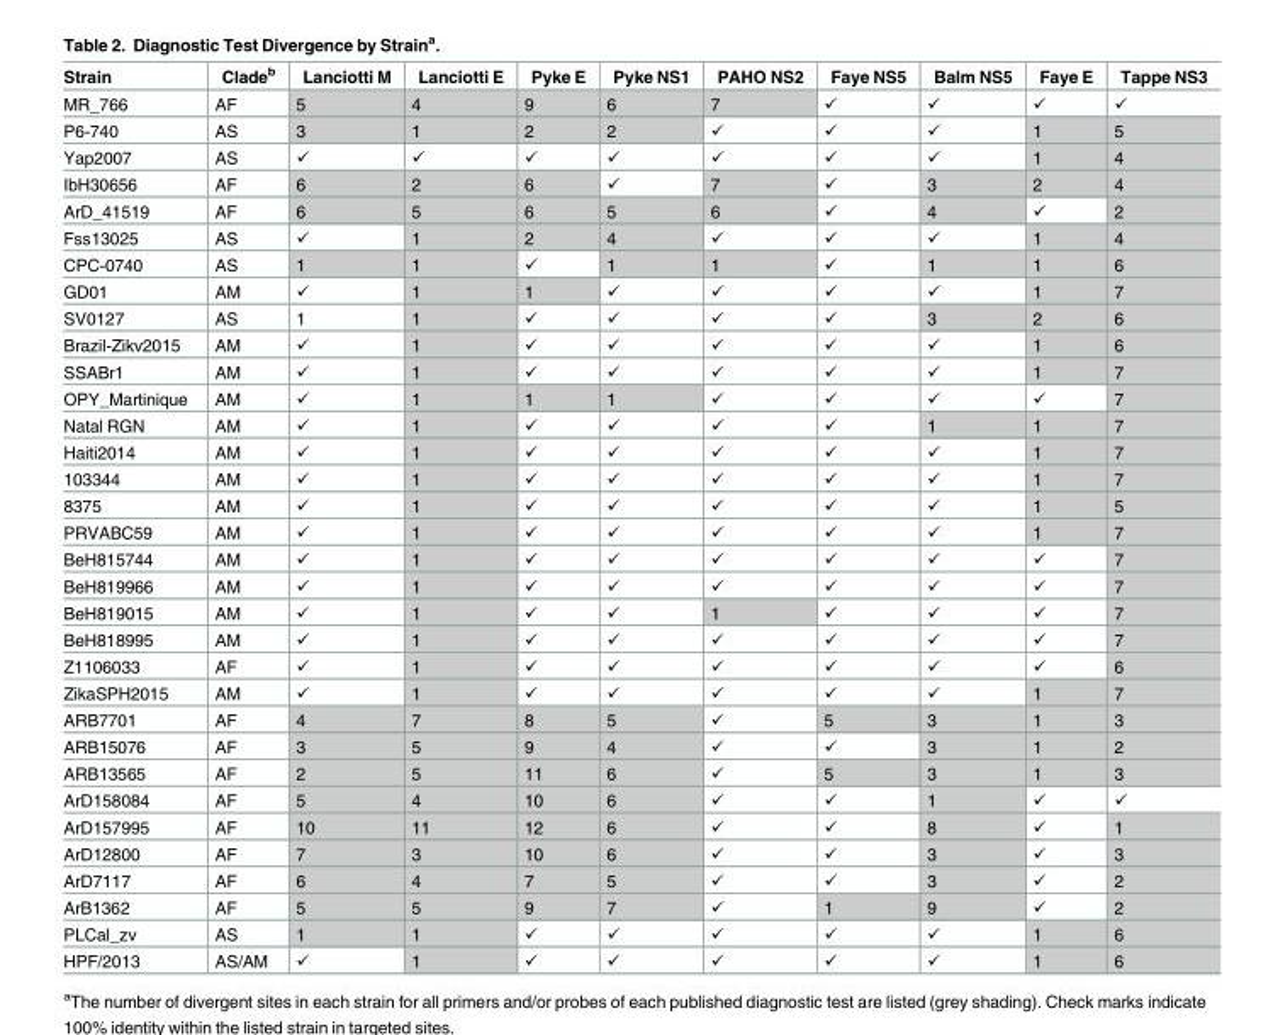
<table><thead><tr><td>Strain</td><td>Clade<sup>b</sup></td><td>Lanciotti M</td><td>Lanciotti E</td><td>Pyke E</td><td>Pyke NS1</td><td>PAHO NS2</td><td>Faye NS5</td><td>Balm NS5</td><td>Faye E</td><td>Tappe NS3</td></tr></thead><tbody><tr><td>MR_766</td><td>AF</td><td>5</td><td>4</td><td>9</td><td>6</td><td>7</td><td>✓</td><td>✓</td><td>✓</td><td>✓</td></tr><tr><td>P6-740</td><td>AS</td><td>3</td><td>1</td><td>2</td><td>2</td><td>✓</td><td>✓</td><td>✓</td><td>1</td><td>5</td></tr><tr><td>Yap2007</td><td>AS</td><td>✓</td><td>✓</td><td>✓</td><td>✓</td><td>✓</td><td>✓</td><td>✓</td><td>1</td><td>4</td></tr><tr><td>IbH30656</td><td>AF</td><td>6</td><td>2</td><td>6</td><td>✓</td><td>7</td><td>✓</td><td>3</td><td>2</td><td>4</td></tr><tr><td>ArD_41519</td><td>AF</td><td>6</td><td>5</td><td>6</td><td>5</td><td>6</td><td>✓</td><td>4</td><td>✓</td><td>2</td></tr><tr><td>Fss13025</td><td>AS</td><td>✓</td><td>1</td><td>2</td><td>4</td><td>✓</td><td>✓</td><td>✓</td><td>1</td><td>4</td></tr><tr><td>CPC-0740</td><td>AS</td><td>1</td><td>1</td><td>✓</td><td>1</td><td>1</td><td>✓</td><td>1</td><td>1</td><td>6</td></tr><tr><td>GD01</td><td>AM</td><td>✓</td><td>1</td><td>1</td><td>✓</td><td>✓</td><td>✓</td><td>✓</td><td>1</td><td>7</td></tr><tr><td>SV0127</td><td>AS</td><td>1</td><td>1</td><td>✓</td><td>✓</td><td>✓</td><td>✓</td><td>3</td><td>2</td><td>6</td></tr><tr><td>Brazil-Zikv2015</td><td>AM</td><td>✓</td><td>1</td><td>✓</td><td>✓</td><td>✓</td><td>✓</td><td>✓</td><td>1</td><td>6</td></tr><tr><td>SSABr1</td><td>AM</td><td>✓</td><td>1</td><td>✓</td><td>✓</td><td>✓</td><td>✓</td><td>✓</td><td>1</td><td>7</td></tr><tr><td>OPY_Martinique</td><td>AM</td><td>✓</td><td>1</td><td>1</td><td>1</td><td>✓</td><td>✓</td><td>✓</td><td>✓</td><td>7</td></tr><tr><td>Natal RGN</td><td>AM</td><td>✓</td><td>1</td><td>✓</td><td>✓</td><td>✓</td><td>✓</td><td>1</td><td>1</td><td>7</td></tr><tr><td>Haiti2014</td><td>AM</td><td>✓</td><td>1</td><td>✓</td><td>✓</td><td>✓</td><td>✓</td><td>✓</td><td>1</td><td>7</td></tr><tr><td>103344</td><td>AM</td><td>✓</td><td>1</td><td>✓</td><td>✓</td><td>✓</td><td>✓</td><td>✓</td><td>1</td><td>7</td></tr><tr><td>8375</td><td>AM</td><td>✓</td><td>1</td><td>✓</td><td>✓</td><td>✓</td><td>✓</td><td>✓</td><td>1</td><td>5</td></tr><tr><td>PRVABC59</td><td>AM</td><td>✓</td><td>1</td><td>✓</td><td>✓</td><td>✓</td><td>✓</td><td>✓</td><td>1</td><td>7</td></tr><tr><td>BeH815744</td><td>AM</td><td>✓</td><td>1</td><td>✓</td><td>✓</td><td>✓</td><td>✓</td><td>✓</td><td>✓</td><td>7</td></tr><tr><td>BeH819966</td><td>AM</td><td>✓</td><td>1</td><td>✓</td><td>✓</td><td>✓</td><td>✓</td><td>✓</td><td>✓</td><td>7</td></tr><tr><td>BeH819015</td><td>AM</td><td>✓</td><td>1</td><td>✓</td><td>✓</td><td>1</td><td>✓</td><td>✓</td><td>✓</td><td>7</td></tr><tr><td>BeH818995</td><td>AM</td><td>✓</td><td>1</td><td>✓</td><td>✓</td><td>✓</td><td>✓</td><td>✓</td><td>✓</td><td>7</td></tr><tr><td>Z1106033</td><td>AF</td><td>✓</td><td>1</td><td>✓</td><td>✓</td><td>✓</td><td>✓</td><td>✓</td><td>✓</td><td>6</td></tr><tr><td>ZikaSPH2015</td><td>AM</td><td>✓</td><td>1</td><td>✓</td><td>✓</td><td>✓</td><td>✓</td><td>✓</td><td>1</td><td>7</td></tr><tr><td>ARB7701</td><td>AF</td><td>4</td><td>7</td><td>8</td><td>5</td><td>✓</td><td>5</td><td>3</td><td>1</td><td>3</td></tr><tr><td>ARB15076</td><td>AF</td><td>3</td><td>5</td><td>9</td><td>4</td><td>✓</td><td>✓</td><td>3</td><td>1</td><td>2</td></tr><tr><td>ARB13565</td><td>AF</td><td>2</td><td>5</td><td>11</td><td>6</td><td>✓</td><td>5</td><td>3</td><td>1</td><td>3</td></tr><tr><td>ArD158084</td><td>AF</td><td>5</td><td>4</td><td>10</td><td>6</td><td>✓</td><td>✓</td><td>1</td><td>✓</td><td>✓</td></tr><tr><td>ArD157995</td><td>AF</td><td>10</td><td>11</td><td>12</td><td>6</td><td>✓</td><td>✓</td><td>8</td><td>✓</td><td>1</td></tr><tr><td>ArD12800</td><td>AF</td><td>7</td><td>3</td><td>10</td><td>6</td><td>✓</td><td>✓</td><td>3</td><td>✓</td><td>3</td></tr><tr><td>ArD7117</td><td>AF</td><td>6</td><td>4</td><td>7</td><td>5</td><td>✓</td><td>✓</td><td>3</td><td>✓</td><td>2</td></tr><tr><td>ArB1362</td><td>AF</td><td>5</td><td>5</td><td>9</td><td>7</td><td>✓</td><td>1</td><td>9</td><td>✓</td><td>2</td></tr><tr><td>PLCal_zv</td><td>AS</td><td>1</td><td>1</td><td>✓</td><td>✓</td><td>✓</td><td>✓</td><td>✓</td><td>1</td><td>6</td></tr><tr><td>HPF/2013</td><td>AS/AM</td><td>✓</td><td>1</td><td>✓</td><td>✓</td><td>✓</td><td>✓</td><td>✓</td><td>1</td><td>6</td></tr></tbody></table>